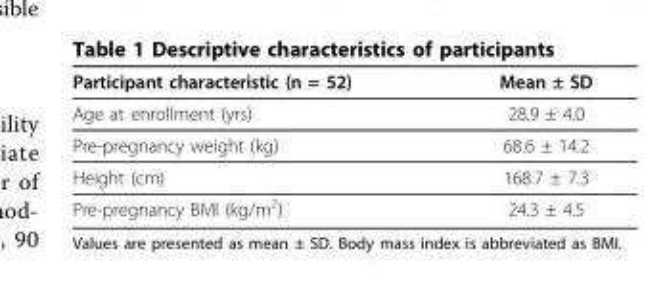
<table><thead><tr><td>Participant characteristic (n = 52)</td><td>Mean ± SD</td></tr></thead><tbody><tr><td>Age at enrollment (yrs)</td><td>28.9 ± 4.0</td></tr><tr><td>Pre-pregnancy weight (kg)</td><td>68.6 ± 14.2</td></tr><tr><td>Height (cm)</td><td>168.7 ± 7.3</td></tr><tr><td>Pre-pregnancy BMI (kg/m<sup>2</sup>)</td><td>24.3 ± 4.5</td></tr></tbody></table>